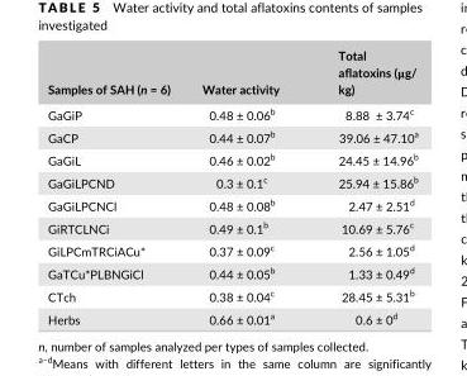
<table><thead><tr><td>Samples of SAH (n = 6)</td><td>Water activity</td><td>Total aflatoxins (μg/ kg)</td></tr></thead><tbody><tr><td>GaGiP</td><td>0.48 ± 0.06<sup>b</sup></td><td>8.88 ± 3.74<sup>c</sup></td></tr><tr><td>GaCP</td><td>0.44 ± 0.07<sup>b</sup></td><td>39.06 ± 47.10<sup>a</sup></td></tr><tr><td>GaGiL</td><td>0.46 ± 0.02<sup>b</sup></td><td>24.45 ± 14.96<sup>b</sup></td></tr><tr><td>GaGiLPCND</td><td>0.3 ± 0.1<sup>c</sup></td><td>25.94 ± 15.86<sup>b</sup></td></tr><tr><td>GaGiLPCNCl</td><td>0.48 ± 0.08<sup>b</sup></td><td>2.47 ± 2.51<sup>d</sup></td></tr><tr><td>GiRTCLNCi</td><td>0.49 ± 0.1<sup>b</sup></td><td>10.69 ± 5.76<sup>c</sup></td></tr><tr><td>GiLPCmTRCiACu*</td><td>0.37 ± 0.09<sup>c</sup></td><td>2.56 ± 1.05<sup>d</sup></td></tr><tr><td>GaTCu*PLBNGiCl</td><td>0.44 ± 0.05<sup>b</sup></td><td>1.33 ± 0.49<sup>d</sup></td></tr><tr><td>CTch</td><td>0.38 ± 0.04<sup>c</sup></td><td>28.45 ± 5.31<sup>b</sup></td></tr><tr><td>Herbs</td><td>0.66 ± 0.01<sup>a</sup></td><td>0.6 ± 0<sup>d</sup></td></tr></tbody></table>